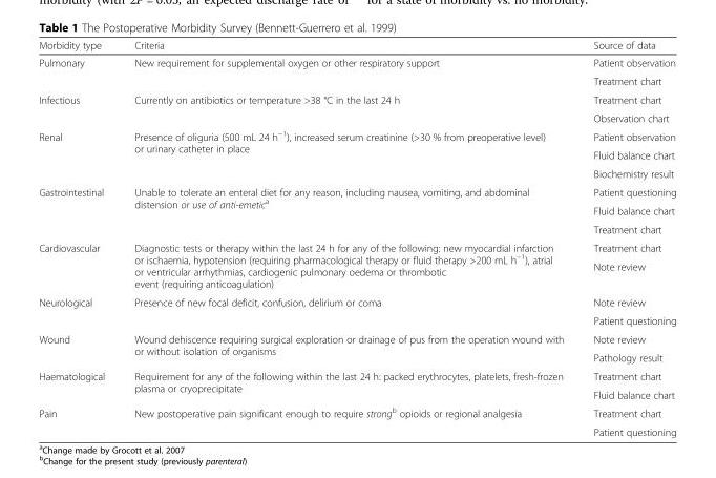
<table><thead><tr><td>Morbidity type</td><td>Criteria</td><td>Source of data</td></tr></thead><tbody><tr><td rowspan="2">Pulmonary</td><td rowspan="2">New requirement for supplemental oxygen or other respiratory support</td><td>Patient observation</td></tr><tr><td>Treatment chart</td></tr><tr><td rowspan="2">Infectious</td><td rowspan="2">Currently on antibiotics or temperature &gt;38 °C in the last 24 h</td><td>Treatment chart</td></tr><tr><td>Observation chart</td></tr><tr><td rowspan="3">Renal</td><td rowspan="3">Presence of oliguria (500 mL 24 h<sup>−1</sup>), increased serum creatinine (&gt;30 % from preoperative level) or urinary catheter in place</td><td>Patient observation</td></tr><tr><td>Fluid balance chart</td></tr><tr><td>Biochemistry result</td></tr><tr><td rowspan="3">Gastrointestinal</td><td rowspan="3">Unable to tolerate an enteral diet for any reason, including nausea, vomiting, and abdominal distension or use of anti-emetic<sup>a</sup></td><td>Patient questioning</td></tr><tr><td>Fluid balance chart</td></tr><tr><td>Treatment chart</td></tr><tr><td rowspan="2">Cardiovascular</td><td rowspan="2">Diagnostic tests or therapy within the last 24 h for any of the following: new myocardial infarction or ischaemia, hypotension (requiring pharmacological therapy or fluid therapy &gt;200 mL h<sup>−1</sup>), atrial or ventricular arrhythmias, cardiogenic pulmonary oedema or thrombotic event (requiring anticoagulation)</td><td>Treatment chart</td></tr><tr><td>Note review</td></tr><tr><td rowspan="2">Neurological</td><td rowspan="2">Presence of new focal deficit, confusion, delirium or coma</td><td>Note review</td></tr><tr><td>Patient questioning</td></tr><tr><td rowspan="2">Wound</td><td rowspan="2">Wound dehiscence requiring surgical exploration or drainage of pus from the operation wound with or without isolation of organisms</td><td>Note review</td></tr><tr><td>Pathology result</td></tr><tr><td rowspan="2">Haematological</td><td rowspan="2">Requirement for any of the following within the last 24 h: packed erythrocytes, platelets, fresh-frozen plasma or cryoprecipitate</td><td>Treatment chart</td></tr><tr><td>Fluid balance chart</td></tr><tr><td rowspan="2">Pain</td><td rowspan="2">New postoperative pain significant enough to require strong<sup>b</sup> opioids or regional analgesia</td><td>Treatment chart</td></tr><tr><td>Patient questioning</td></tr></tbody></table>